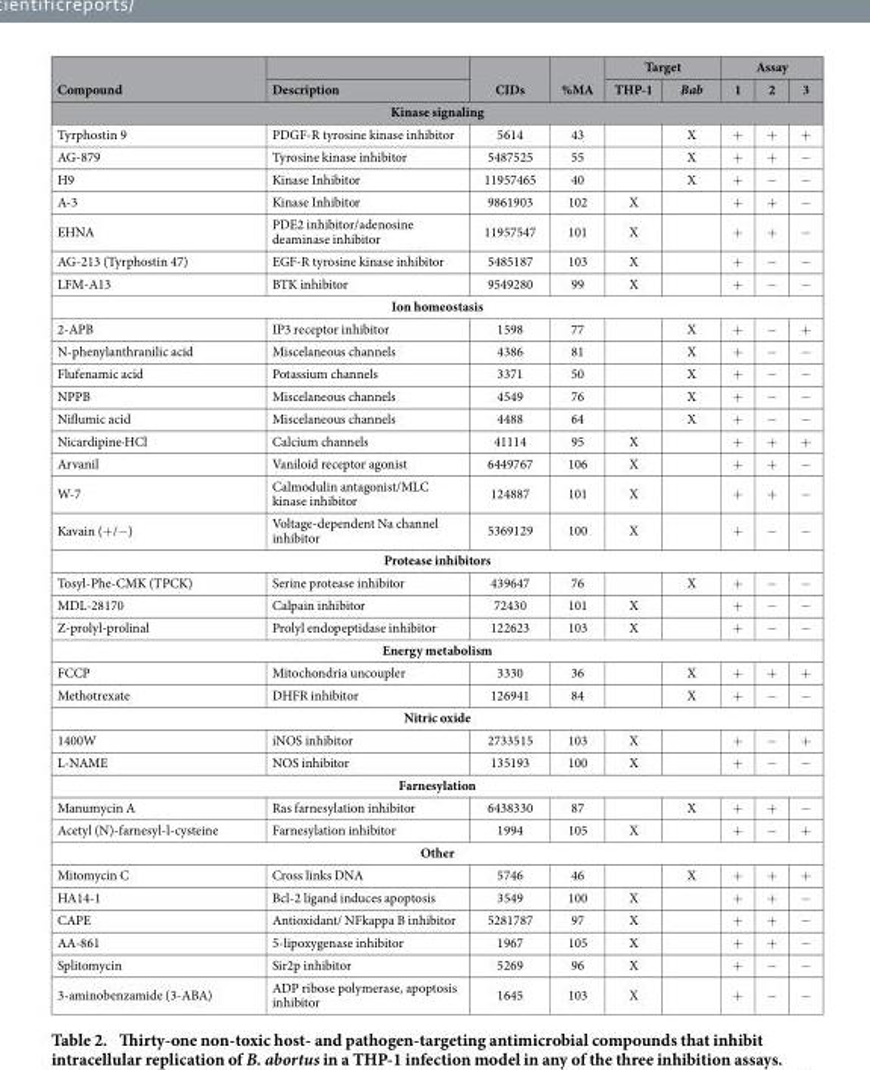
<table><thead><tr><td rowspan="2">Compound</td><td rowspan="2">Description</td><td rowspan="2">CIDs</td><td rowspan="2">%MA</td><td colspan="2">Target</td><td colspan="3">Assay</td></tr><tr><td>THP-1</td><td>Bab</td><td>1</td><td>2</td><td>3</td></tr><tr><td colspan="9">Kinase signaling</td></tr></thead><tbody><tr><td>Tyrphostin 9</td><td>PDGF-R tyrosine kinase inhibitor</td><td>5614</td><td>43</td><td></td><td>X</td><td>+</td><td>+</td><td>+</td></tr><tr><td>AG-879</td><td>Tyrosine kinase inhibitor</td><td>5487525</td><td>55</td><td></td><td>X</td><td>+</td><td>+</td><td>−</td></tr><tr><td>H9</td><td>Kinase Inhibitor</td><td>11957465</td><td>40</td><td></td><td>X</td><td>+</td><td>−</td><td>−</td></tr><tr><td>A-3</td><td>Kinase Inhibitor</td><td>9861903</td><td>102</td><td>X</td><td></td><td>+</td><td>+</td><td>−</td></tr><tr><td>EHNA</td><td>PDE2 inhibitor/adenosine deaminase inhibitor</td><td>11957547</td><td>101</td><td>X</td><td></td><td>+</td><td>+</td><td>−</td></tr><tr><td>AG-213 (Tyrphostin 47)</td><td>EGF-R tyrosine kinase inhibitor</td><td>5485187</td><td>103</td><td>X</td><td></td><td>+</td><td>−</td><td>−</td></tr><tr><td>LFM-A13</td><td>BTK inhibitor</td><td>9549280</td><td>99</td><td>X</td><td></td><td>+</td><td>−</td><td>−</td></tr><tr><td colspan="9">Ion homeostasis</td></tr><tr><td>2-APB</td><td>IP3 receptor inhibitor</td><td>1598</td><td>77</td><td></td><td>X</td><td>+</td><td>−</td><td>+</td></tr><tr><td>N-phenylanthranilic acid</td><td>Miscelaneous channels</td><td>4386</td><td>81</td><td></td><td>X</td><td>+</td><td>−</td><td>−</td></tr><tr><td>Flufenamic acid</td><td>Potassium channels</td><td>3371</td><td>50</td><td></td><td>X</td><td>+</td><td>−</td><td>−</td></tr><tr><td>NPPB</td><td>Miscelaneous channels</td><td>4549</td><td>76</td><td></td><td>X</td><td>+</td><td>−</td><td>−</td></tr><tr><td>Niflumic acid</td><td>Miscelaneous channels</td><td>4488</td><td>64</td><td></td><td>X</td><td>+</td><td>−</td><td>−</td></tr><tr><td>Nicardipine·HCl</td><td>Calcium channels</td><td>41114</td><td>95</td><td>X</td><td></td><td>+</td><td>+</td><td>+</td></tr><tr><td>Arvanil</td><td>Vaniloid receptor agonist</td><td>6449767</td><td>106</td><td>X</td><td></td><td>+</td><td>+</td><td>−</td></tr><tr><td>W-7</td><td>Calmodulin antagonist/MLC kinase inhibitor</td><td>124887</td><td>101</td><td>X</td><td></td><td>+</td><td>+</td><td>−</td></tr><tr><td>Kavain (+ /− )</td><td>Voltage-dependent Na channel inhibitor</td><td>5369129</td><td>100</td><td>X</td><td></td><td>+</td><td>−</td><td>−</td></tr><tr><td colspan="9">Protease inhibitors</td></tr><tr><td>Tosyl-Phe-CMK (TPCK)</td><td>Serine protease inhibitor</td><td>439647</td><td>76</td><td></td><td>X</td><td>+</td><td>−</td><td>−</td></tr><tr><td>MDL-28170</td><td>Calpain inhibitor</td><td>72430</td><td>101</td><td>X</td><td></td><td>+</td><td>−</td><td>−</td></tr><tr><td>Z-prolyl-prolinal</td><td>Prolyl endopeptidase inhibitor</td><td>122623</td><td>103</td><td>X</td><td></td><td>+</td><td>−</td><td>−</td></tr><tr><td colspan="9">Energy metabolism</td></tr><tr><td>FCCP</td><td>Mitochondria uncoupler</td><td>3330</td><td>36</td><td></td><td>X</td><td>+</td><td>+</td><td>+</td></tr><tr><td>Methotrexate</td><td>DHFR inhibitor</td><td>126941</td><td>84</td><td></td><td>X</td><td>+</td><td>−</td><td>−</td></tr><tr><td colspan="9">Nitric oxide</td></tr><tr><td>1400W</td><td>iNOS inhibitor</td><td>2733515</td><td>103</td><td>X</td><td></td><td>+</td><td>−</td><td>+</td></tr><tr><td>L-NAME</td><td>NOS inhibitor</td><td>135193</td><td>100</td><td>X</td><td></td><td>+</td><td>−</td><td>−</td></tr><tr><td colspan="9">Farnesylation</td></tr><tr><td>Manumycin A</td><td>Ras farnesylation inhibitor</td><td>6438330</td><td>87</td><td></td><td>X</td><td>+</td><td>+</td><td>−</td></tr><tr><td>Acetyl (N)-farnesyl-l-cysteine</td><td>Farnesylation inhibitor</td><td>1994</td><td>105</td><td>X</td><td></td><td>+</td><td>−</td><td>+</td></tr><tr><td colspan="9">Other</td></tr><tr><td>Mitomycin C</td><td>Cross links DNA</td><td>5746</td><td>46</td><td></td><td>X</td><td>+</td><td>+</td><td>+</td></tr><tr><td>HA14-1</td><td>Bcl-2 ligand induces apoptosis</td><td>3549</td><td>100</td><td>X</td><td></td><td>+</td><td>+</td><td>−</td></tr><tr><td>CAPE</td><td>Antioxidant/ NFkappa B inhibitor</td><td>5281787</td><td>97</td><td>X</td><td></td><td>+</td><td>+</td><td>−</td></tr><tr><td>AA-861</td><td>5-lipoxygenase inhibitor</td><td>1967</td><td>105</td><td>X</td><td></td><td>+</td><td>+</td><td>−</td></tr><tr><td>Splitomycin</td><td>Sir2p inhibitor</td><td>5269</td><td>96</td><td>X</td><td></td><td>+</td><td>−</td><td>−</td></tr><tr><td>3-aminobenzamide (3-ABA)</td><td>ADP ribose polymerase, apoptosis inhibitor</td><td>1645</td><td>103</td><td>X</td><td></td><td>+</td><td>−</td><td>−</td></tr></tbody></table>